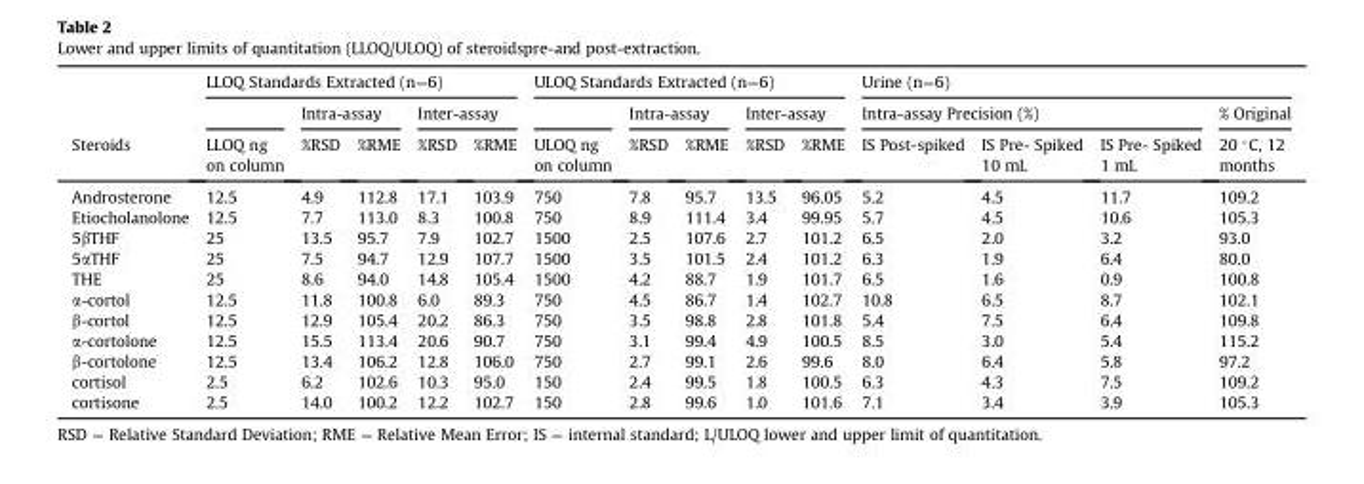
<table><thead><tr><td rowspan="3">Steroids</td><td colspan="5">LLOQ Standards Extracted (n=6)</td><td colspan="5">ULOQ Standards Extracted (n=6)</td><td colspan="4">Urine (n=6)</td></tr><tr><td rowspan="2">LLOQ ng on column</td><td colspan="2">Intra-assay</td><td colspan="2">Inter-assay</td><td rowspan="2">ULOQ ng on column</td><td colspan="2">Intra-assay</td><td colspan="2">Inter-assay</td><td colspan="3">Intra-assay Precision (%)</td><td rowspan="2">% Original 20 °C, 12 months</td></tr><tr><td>%RSD</td><td>%RME</td><td>%RSD</td><td>%RME</td><td>%RSD</td><td>%RME</td><td>%RSD</td><td>%RME</td><td>IS Post-spiked</td><td>IS Pre- Spiked 10 mL</td><td>IS Pre- Spiked 1 mL</td></tr></thead><tbody><tr><td>Androsterone</td><td>12.5</td><td>4.9</td><td>112.8</td><td>17.1</td><td>103.9</td><td>750</td><td>7.8</td><td>95.7</td><td>13.5</td><td>96.05</td><td>5.2</td><td>4.5</td><td>11.7</td><td>109.2</td></tr><tr><td>Etiocholanolone</td><td>12.5</td><td>7.7</td><td>113.0</td><td>8.3</td><td>100.8</td><td>750</td><td>8.9</td><td>111.4</td><td>3.4</td><td>99.95</td><td>5.7</td><td>4.5</td><td>10.6</td><td>105.3</td></tr><tr><td>5βTHF</td><td>25</td><td>13.5</td><td>95.7</td><td>7.9</td><td>102.7</td><td>1500</td><td>2.5</td><td>107.6</td><td>2.7</td><td>101.2</td><td>6.5</td><td>2.0</td><td>3.2</td><td>93.0</td></tr><tr><td>5αTHF</td><td>25</td><td>7.5</td><td>94.7</td><td>12.9</td><td>107.7</td><td>1500</td><td>3.5</td><td>101.5</td><td>2.4</td><td>101.2</td><td>6.3</td><td>1.9</td><td>6.4</td><td>80.0</td></tr><tr><td>THE</td><td>25</td><td>8.6</td><td>94.0</td><td>14.8</td><td>105.4</td><td>1500</td><td>4.2</td><td>88.7</td><td>1.9</td><td>101.7</td><td>6.5</td><td>1.6</td><td>0.9</td><td>100.8</td></tr><tr><td>α-cortol</td><td>12.5</td><td>11.8</td><td>100.8</td><td>6.0</td><td>89.3</td><td>750</td><td>4.5</td><td>86.7</td><td>1.4</td><td>102.7</td><td>10.8</td><td>6.5</td><td>8.7</td><td>102.1</td></tr><tr><td>β-cortol</td><td>12.5</td><td>12.9</td><td>105.4</td><td>20.2</td><td>86.3</td><td>750</td><td>3.5</td><td>98.8</td><td>2.8</td><td>101.8</td><td>5.4</td><td>7.5</td><td>6.4</td><td>109.8</td></tr><tr><td>α-cortolone</td><td>12.5</td><td>15.5</td><td>113.4</td><td>20.6</td><td>90.7</td><td>750</td><td>3.1</td><td>99.4</td><td>4.9</td><td>100.5</td><td>8.5</td><td>3.0</td><td>5.4</td><td>115.2</td></tr><tr><td>β-cortolone</td><td>12.5</td><td>13.4</td><td>106.2</td><td>12.8</td><td>106.0</td><td>750</td><td>2.7</td><td>99.1</td><td>2.6</td><td>99.6</td><td>8.0</td><td>6.4</td><td>5.8</td><td>97.2</td></tr><tr><td>cortisol</td><td>2.5</td><td>6.2</td><td>102.6</td><td>10.3</td><td>95.0</td><td>150</td><td>2.4</td><td>99.5</td><td>1.8</td><td>100.5</td><td>6.3</td><td>4.3</td><td>7.5</td><td>109.2</td></tr><tr><td>cortisone</td><td>2.5</td><td>14.0</td><td>100.2</td><td>12.2</td><td>102.7</td><td>150</td><td>2.8</td><td>99.6</td><td>1.0</td><td>101.6</td><td>7.1</td><td>3.4</td><td>3.9</td><td>105.3</td></tr></tbody></table>